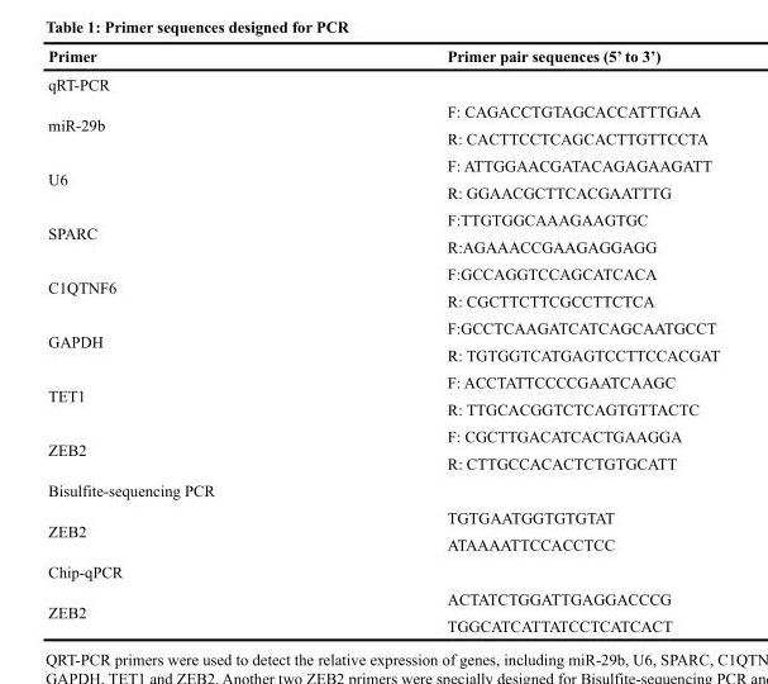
<table><thead><tr><td>Primer</td><td>Primer pair sequences (5’ to 3’)</td></tr></thead><tbody><tr><td colspan="2">qRT-PCR</td></tr><tr><td rowspan="2">miR-29b</td><td>F: CAGACCTGTAGCACCATTTGAA</td></tr><tr><td>R: CACTTCCTCAGCACTTGTTCCTA</td></tr><tr><td rowspan="2">U6</td><td>F: ATTGGAACGATACAGAGAAGATT</td></tr><tr><td>R: GGAACGCTTCACGAATTTG</td></tr><tr><td rowspan="2">SPARC</td><td>F:TTGTGGCAAAGAAGTGC</td></tr><tr><td>R:AGAAACCGAAGAGGAGG</td></tr><tr><td rowspan="2">C1QTNF6</td><td>F:GCCAGGTCCAGCATCACA</td></tr><tr><td>R: CGCTTCTTCGCCTTCTCA</td></tr><tr><td rowspan="2">GAPDH</td><td>F:GCCTCAAGATCATCAGCAATGCCT</td></tr><tr><td>R: TGTGGTCATGAGTCCTTCCACGAT</td></tr><tr><td rowspan="2">TET1</td><td>F: ACCTATTCCCCGAATCAAGC</td></tr><tr><td>R: TTGCACGGTCTCAGTGTTACTC</td></tr><tr><td rowspan="2">ZEB2</td><td>F: CGCTTGACATCACTGAAGGA</td></tr><tr><td>R: CTTGCCACACTCTGTGCATT</td></tr><tr><td colspan="2">Bisulfite-sequencing PCR</td></tr><tr><td rowspan="2">ZEB2</td><td>TGTGAATGGTGTGTAT</td></tr><tr><td>ATAAAATTCCACCTCC</td></tr><tr><td colspan="2">Chip-qPCR</td></tr><tr><td rowspan="2">ZEB2</td><td>ACTATCTGGATTGAGGACCCG</td></tr><tr><td>TGGCATCATTATCCTCATCACT</td></tr></tbody></table>